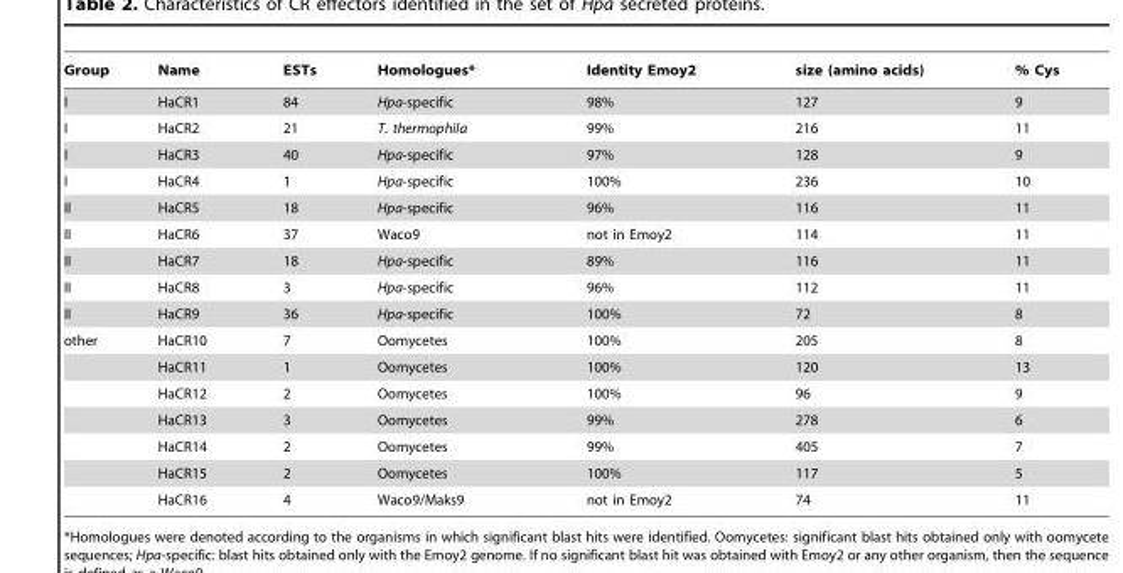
<table><thead><tr><td>Group</td><td>Name</td><td>ESTs</td><td>Homologues*</td><td>Identity Emoy2</td><td>size (amino acids)</td><td>% Cys</td></tr></thead><tbody><tr><td>I</td><td>HaCR1</td><td>84</td><td>Hpa-specific</td><td>98%</td><td>127</td><td>9</td></tr><tr><td>I</td><td>HaCR2</td><td>21</td><td>T. thermophila</td><td>99%</td><td>216</td><td>11</td></tr><tr><td>I</td><td>HaCR3</td><td>40</td><td>Hpa-specific</td><td>97%</td><td>128</td><td>9</td></tr><tr><td>I</td><td>HaCR4</td><td>1</td><td>Hpa-specific</td><td>100%</td><td>236</td><td>10</td></tr><tr><td>II</td><td>HaCR5</td><td>18</td><td>Hpa-specific</td><td>96%</td><td>116</td><td>11</td></tr><tr><td>II</td><td>HaCR6</td><td>37</td><td>Waco9</td><td>not in Emoy2</td><td>114</td><td>11</td></tr><tr><td>II</td><td>HaCR7</td><td>18</td><td>Hpa-specific</td><td>89%</td><td>116</td><td>11</td></tr><tr><td>II</td><td>HaCR8</td><td>3</td><td>Hpa-specific</td><td>96%</td><td>112</td><td>11</td></tr><tr><td>II</td><td>HaCR9</td><td>36</td><td>Hpa-specific</td><td>100%</td><td>72</td><td>8</td></tr><tr><td rowspan="7">other</td><td>HaCR10</td><td>7</td><td>Oomycetes</td><td>100%</td><td>205</td><td>8</td></tr><tr><td>HaCR11</td><td>1</td><td>Oomycetes</td><td>100%</td><td>120</td><td>13</td></tr><tr><td>HaCR12</td><td>2</td><td>Oomycetes</td><td>100%</td><td>96</td><td>9</td></tr><tr><td>HaCR13</td><td>3</td><td>Oomycetes</td><td>99%</td><td>278</td><td>6</td></tr><tr><td>HaCR14</td><td>2</td><td>Oomycetes</td><td>99%</td><td>405</td><td>7</td></tr><tr><td>HaCR15</td><td>2</td><td>Oomycetes</td><td>100%</td><td>117</td><td>5</td></tr><tr><td>HaCR16</td><td>4</td><td>Waco9/Maks9</td><td>not in Emoy2</td><td>74</td><td>11</td></tr></tbody></table>